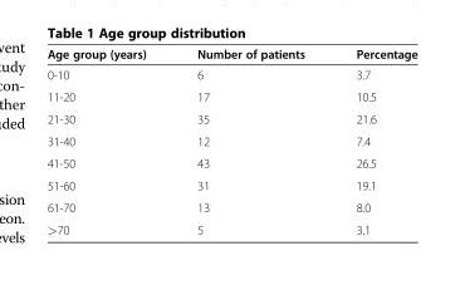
<table><thead><tr><td>Age group (years)</td><td>Number of patients</td><td>Percentage</td></tr></thead><tbody><tr><td>0-10</td><td>6</td><td>3.7</td></tr><tr><td>11-20</td><td>17</td><td>10.5</td></tr><tr><td>21-30</td><td>35</td><td>21.6</td></tr><tr><td>31-40</td><td>12</td><td>7.4</td></tr><tr><td>41-50</td><td>43</td><td>26.5</td></tr><tr><td>51-60</td><td>31</td><td>19.1</td></tr><tr><td>61-70</td><td>13</td><td>8.0</td></tr><tr><td>&gt;70</td><td>5</td><td>3.1</td></tr></tbody></table>